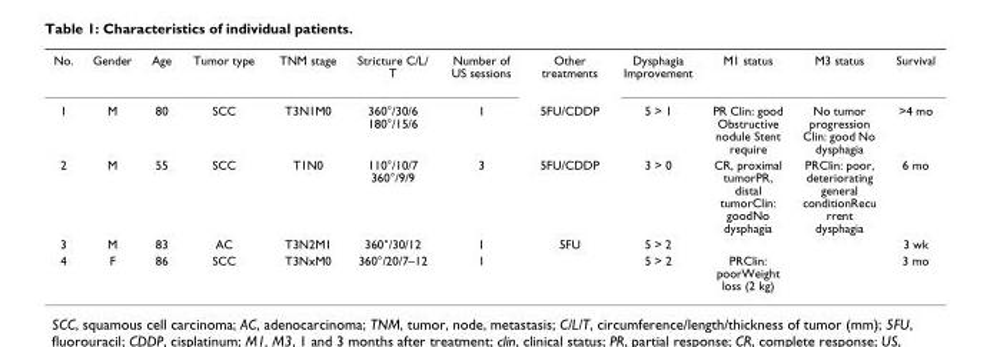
<table><tbody><tr><td>No.</td><td>Gender</td><td>Age</td><td>Tumor type</td><td>TNM stage</td><td>Stricture C/L/ T</td><td>Number of US sessions</td><td>Other treatments</td><td>Dysphagia Improvement</td><td>M1 status</td><td>M3 status</td><td>Survival</td></tr><tr><td>1</td><td>M</td><td>80</td><td>SCC</td><td>T3N1M0</td><td>360°/30/6 180°/15/6</td><td>1</td><td>5FU/CDDP</td><td>5 &gt; 1</td><td>PR Clin: good Obstructive nodule Stent require</td><td>No tumor progression Clin: good No dysphagia</td><td>&gt;4 mo</td></tr><tr><td>2</td><td>M</td><td>55</td><td>SCC</td><td>T1N0</td><td>110°/10/7 360°/9/9</td><td>3</td><td>5FU/CDDP</td><td>3 &gt; 0</td><td>CR, proximal tumorPR, distal tumorClin: goodNo dysphagia</td><td>PRClin: poor, deteriorating general conditionRecu rrent dysphagia</td><td>6 mo</td></tr><tr><td>3</td><td>M</td><td>83</td><td>AC</td><td>T3N2M1</td><td>360°/30/12</td><td>1</td><td>5FU</td><td>5 &gt; 2</td><td></td><td></td><td>3 wk</td></tr><tr><td>4</td><td>F</td><td>86</td><td>SCC</td><td>T3NxM0</td><td>360°/20/7–12</td><td>1</td><td></td><td>5 &gt; 2</td><td>PRClin: poorWeight loss (2 kg)</td><td></td><td>3 mo</td></tr></tbody></table>